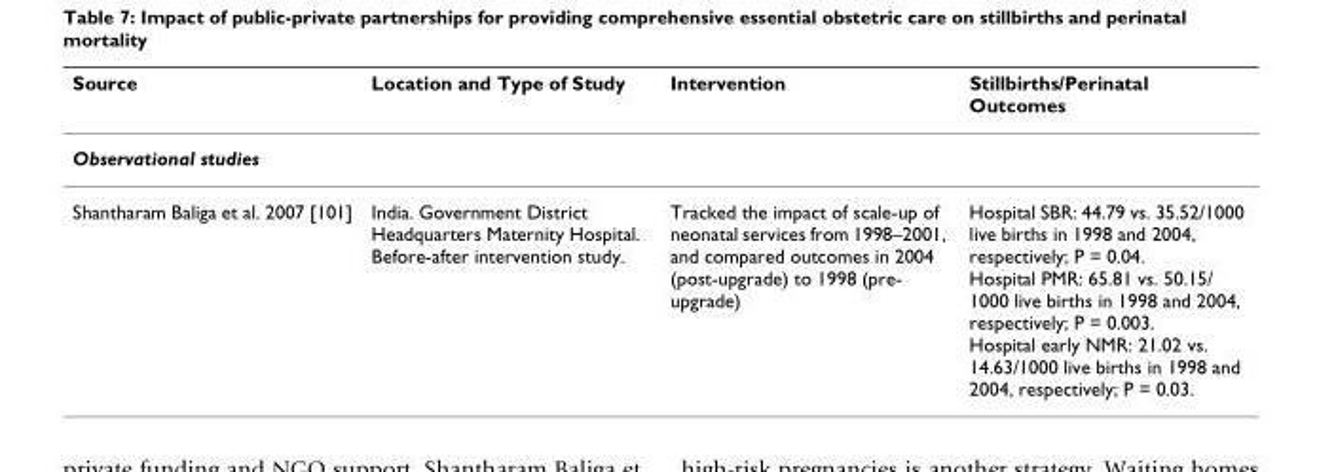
<table><thead><tr><td>Source</td><td>Location and Type of Study</td><td>Intervention</td><td>Stillbirths/Perinatal Outcomes</td></tr></thead><tbody><tr><td colspan="4">Observational studies</td></tr><tr><td>Shantharam Baliga et al. 2007 [101]</td><td>India. Government District Headquarters Maternity Hospital. Before-after intervention study.</td><td>Tracked the impact of scale-up of neonatal services from 1998–2001, and compared outcomes in 2004 (post-upgrade) to 1998 (pre- upgrade)</td><td>Hospital SBR: 44.79 vs. 35.52/1000 live births in 1998 and 2004, respectively; P = 0.04. Hospital PMR: 65.81 vs. 50.15/ 1000 live births in 1998 and 2004, respectively; P = 0.003. Hospital early NMR: 21.02 vs. 14.63/1000 live births in 1998 and 2004, respectively; P = 0.03.</td></tr></tbody></table>